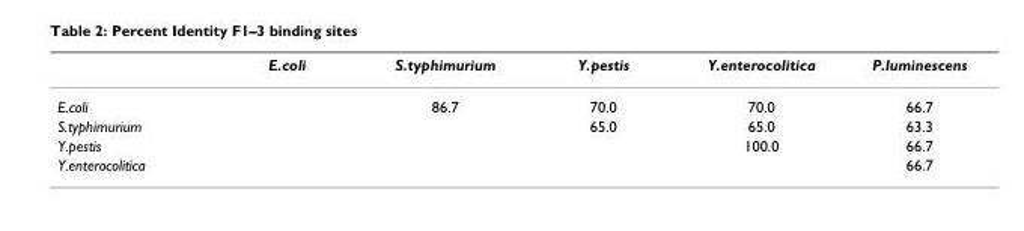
<table><thead><tr><td></td><td>E.coli</td><td>S.typhimurium</td><td>Y.pestis</td><td>Y.enterocolitica</td><td>P.luminescens</td></tr></thead><tbody><tr><td>E.coli</td><td></td><td>86.7</td><td>70.0</td><td>70.0</td><td>66.7</td></tr><tr><td>S.typhimurium</td><td></td><td></td><td>65.0</td><td>65.0</td><td>63.3</td></tr><tr><td>Y.pestis</td><td></td><td></td><td></td><td>100.0</td><td>66.7</td></tr><tr><td>Y.enterocolitica</td><td></td><td></td><td></td><td></td><td>66.7</td></tr></tbody></table>